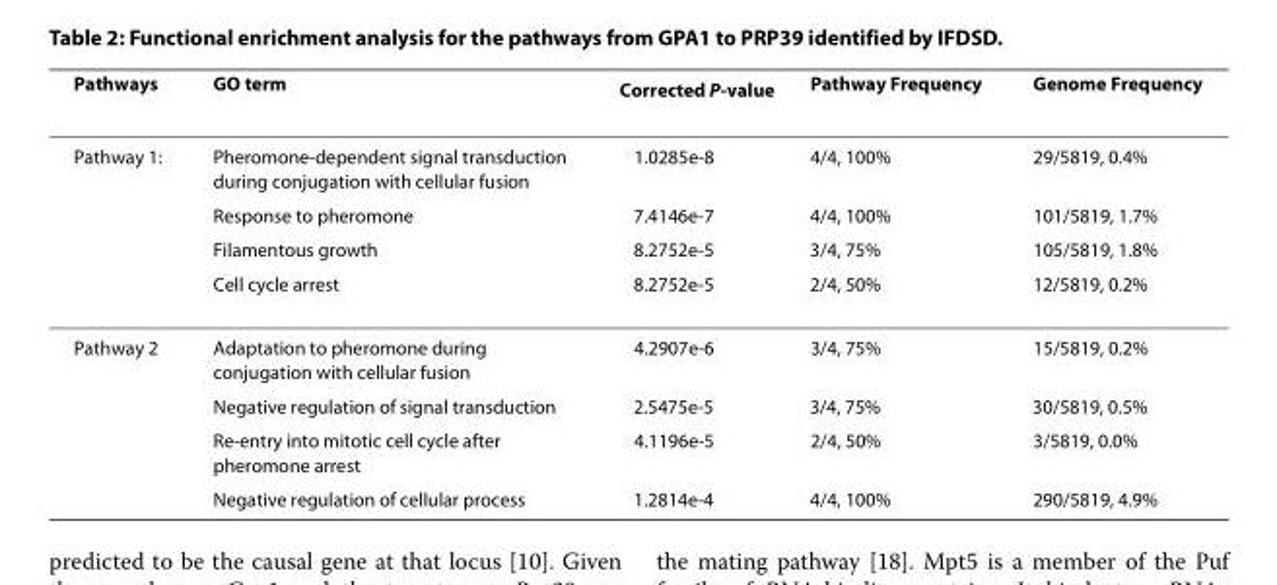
<table><thead><tr><td>Pathways</td><td>GO term</td><td>Corrected P-value</td><td>Pathway Frequency</td><td>Genome Frequency</td></tr></thead><tbody><tr><td rowspan="4">Pathway 1:</td><td>Pheromone-dependent signal transduction during conjugation with cellular fusion</td><td>1.0285e-8</td><td>4/4, 100%</td><td>29/5819, 0.4%</td></tr><tr><td>Response to pheromone</td><td>7.4146e-7</td><td>4/4, 100%</td><td>101/5819, 1.7%</td></tr><tr><td>Filamentous growth</td><td>8.2752e-5</td><td>3/4, 75%</td><td>105/5819, 1.8%</td></tr><tr><td>Cell cycle arrest</td><td>8.2752e-5</td><td>2/4, 50%</td><td>12/5819, 0.2%</td></tr><tr><td rowspan="4">Pathway 2</td><td>Adaptation to pheromone during conjugation with cellular fusion</td><td>4.2907e-6</td><td>3/4, 75%</td><td>15/5819, 0.2%</td></tr><tr><td>Negative regulation of signal transduction</td><td>2.5475e-5</td><td>3/4, 75%</td><td>30/5819, 0.5%</td></tr><tr><td>Re-entry into mitotic cell cycle after pheromone arrest</td><td>4.1196e-5</td><td>2/4, 50%</td><td>3/5819, 0.0%</td></tr><tr><td>Negative regulation of cellular process</td><td>1.2814e-4</td><td>4/4, 100%</td><td>290/5819, 4.9%</td></tr></tbody></table>